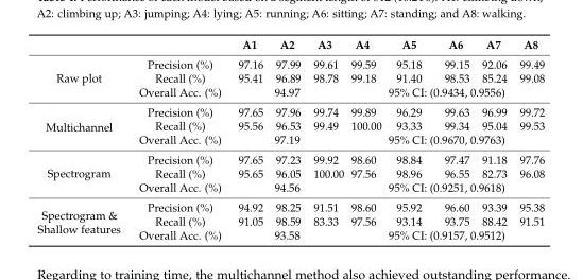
<table><thead><tr><td></td><td></td><td>A1</td><td>A2</td><td>A3</td><td>A4</td><td>A5</td><td>A6</td><td>A7</td><td>A8</td></tr></thead><tbody><tr><td rowspan="3">Raw plot</td><td>Precision (%)</td><td>97.16</td><td>97.99</td><td>99.61</td><td>99.59</td><td>95.18</td><td>99.15</td><td>92.06</td><td>99.49</td></tr><tr><td>Recall (%)</td><td>95.41</td><td>96.89</td><td>98.78</td><td>99.18</td><td>91.40</td><td>98.53</td><td>85.24</td><td>99.08</td></tr><tr><td>Overall Acc. (%)</td><td colspan="3">94.97</td><td colspan="5">95% CI: (0.9434, 0.9556)</td></tr><tr><td rowspan="3">Multichannel</td><td>Precision (%)</td><td>97.65</td><td>97.96</td><td>99.74</td><td>99.89</td><td>96.29</td><td>99.63</td><td>96.99</td><td>99.72</td></tr><tr><td>Recall (%)</td><td>95.56</td><td>96.53</td><td>99.49</td><td>100.00</td><td>93.33</td><td>99.34</td><td>95.04</td><td>99.53</td></tr><tr><td>Overall Acc. (%)</td><td colspan="3">97.19</td><td colspan="5">95% CI: (0.9670, 0.9763)</td></tr><tr><td rowspan="3">Spectrogram</td><td>Precision (%)</td><td>97.65</td><td>97.23</td><td>99.92</td><td>98.60</td><td>98.84</td><td>97.47</td><td>91.18</td><td>97.76</td></tr><tr><td>Recall (%)</td><td>95.65</td><td>96.05</td><td>100.00</td><td>97.56</td><td>98.96</td><td>96.55</td><td>82.73</td><td>96.08</td></tr><tr><td>Overall Acc. (%)</td><td colspan="3">94.56</td><td colspan="5">95% CI: (0.9251, 0.9618)</td></tr><tr><td rowspan="3">Spectrogram &amp; Shallow features</td><td>Precision (%)</td><td>94.92</td><td>98.25</td><td>91.51</td><td>98.60</td><td>95.92</td><td>96.60</td><td>93.39</td><td>95.38</td></tr><tr><td>Recall (%)</td><td>91.05</td><td>98.59</td><td>83.33</td><td>97.56</td><td>93.14</td><td>93.75</td><td>88.42</td><td>91.51</td></tr><tr><td>Overall Acc. (%)</td><td colspan="3">93.58</td><td colspan="5">95% CI: (0.9157, 0.9512)</td></tr></tbody></table>